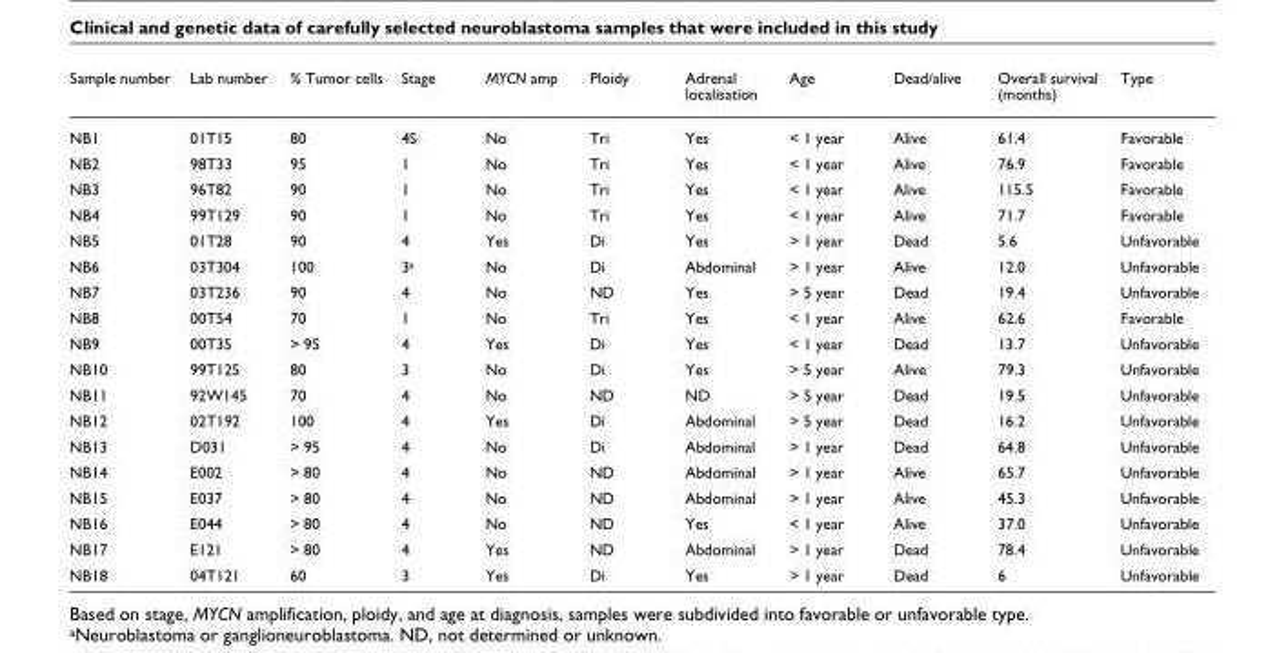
<table><thead><tr><td>Sample number</td><td>Lab number</td><td>% Tumor cells</td><td>Stage</td><td>MYCN amp</td><td>Ploidy</td><td>Adrenal localisation</td><td>Age</td><td>Dead/alive</td><td>Overall survival (months)</td><td>Type</td></tr></thead><tbody><tr><td>NB1</td><td>01T15</td><td>80</td><td>4S</td><td>No</td><td>Tri</td><td>Yes</td><td>&lt; 1 year</td><td>Alive</td><td>61.4</td><td>Favorable</td></tr><tr><td>NB2</td><td>98T33</td><td>95</td><td>1</td><td>No</td><td>Tri</td><td>Yes</td><td>&lt; 1 year</td><td>Alive</td><td>76.9</td><td>Favorable</td></tr><tr><td>NB3</td><td>96T82</td><td>90</td><td>1</td><td>No</td><td>Tri</td><td>Yes</td><td>&lt; 1 year</td><td>Alive</td><td>115.5</td><td>Favorable</td></tr><tr><td>NB4</td><td>99T129</td><td>90</td><td>1</td><td>No</td><td>Tri</td><td>Yes</td><td>&lt; 1 year</td><td>Alive</td><td>71.7</td><td>Favorable</td></tr><tr><td>NB5</td><td>01T28</td><td>90</td><td>4</td><td>Yes</td><td>Di</td><td>Yes</td><td>&gt; 1 year</td><td>Dead</td><td>5.6</td><td>Unfavorable</td></tr><tr><td>NB6</td><td>03T304</td><td>100</td><td>3a</td><td>No</td><td>Di</td><td>Abdominal</td><td>&gt; 1 year</td><td>Alive</td><td>12.0</td><td>Unfavorable</td></tr><tr><td>NB7</td><td>03T236</td><td>90</td><td>4</td><td>No</td><td>ND</td><td>Yes</td><td>&gt; 5 year</td><td>Dead</td><td>19.4</td><td>Unfavorable</td></tr><tr><td>NB8</td><td>00T54</td><td>70</td><td>1</td><td>No</td><td>Tri</td><td>Yes</td><td>&lt; 1 year</td><td>Alive</td><td>62.6</td><td>Favorable</td></tr><tr><td>NB9</td><td>00T35</td><td>&gt; 95</td><td>4</td><td>Yes</td><td>Di</td><td>Yes</td><td>&lt; 1 year</td><td>Dead</td><td>13.7</td><td>Unfavorable</td></tr><tr><td>NB10</td><td>99T125</td><td>80</td><td>3</td><td>No</td><td>Di</td><td>Yes</td><td>&gt; 5 year</td><td>Alive</td><td>79.3</td><td>Unfavorable</td></tr><tr><td>NB11</td><td>92W145</td><td>70</td><td>4</td><td>No</td><td>ND</td><td>ND</td><td>&gt; 5 year</td><td>Dead</td><td>19.5</td><td>Unfavorable</td></tr><tr><td>NB12</td><td>02T192</td><td>100</td><td>4</td><td>Yes</td><td>Di</td><td>Abdominal</td><td>&gt; 5 year</td><td>Dead</td><td>16.2</td><td>Unfavorable</td></tr><tr><td>NB13</td><td>D031</td><td>&gt; 95</td><td>4</td><td>No</td><td>Di</td><td>Abdominal</td><td>&gt; 1 year</td><td>Dead</td><td>64.8</td><td>Unfavorable</td></tr><tr><td>NB14</td><td>E002</td><td>&gt; 80</td><td>4</td><td>No</td><td>ND</td><td>Abdominal</td><td>&gt; 1 year</td><td>Alive</td><td>65.7</td><td>Unfavorable</td></tr><tr><td>NB15</td><td>E037</td><td>&gt; 80</td><td>4</td><td>No</td><td>ND</td><td>Abdominal</td><td>&gt; 1 year</td><td>Alive</td><td>45.3</td><td>Unfavorable</td></tr><tr><td>NB16</td><td>E044</td><td>&gt; 80</td><td>4</td><td>No</td><td>ND</td><td>Yes</td><td>&lt; 1 year</td><td>Alive</td><td>37.0</td><td>Unfavorable</td></tr><tr><td>NB17</td><td>E121</td><td>&gt; 80</td><td>4</td><td>Yes</td><td>ND</td><td>Abdominal</td><td>&gt; 1 year</td><td>Dead</td><td>78.4</td><td>Unfavorable</td></tr><tr><td>NB18</td><td>04T121</td><td>60</td><td>3</td><td>Yes</td><td>Di</td><td>Yes</td><td>&gt; 1 year</td><td>Dead</td><td>6</td><td>Unfavorable</td></tr></tbody></table>